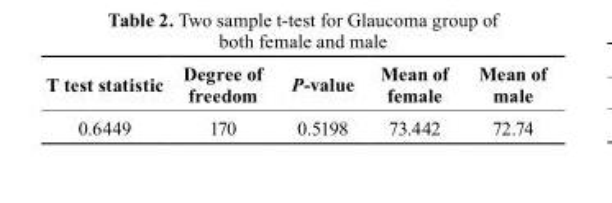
<table><thead><tr><td>test statistic</td><td>Degree of freedom</td><td>P-value</td><td>Mean of female</td><td>Mean of male</td></tr></thead><tbody><tr><td>0.6449</td><td>170</td><td>0.5198</td><td>73.442</td><td>72.74</td></tr></tbody></table>